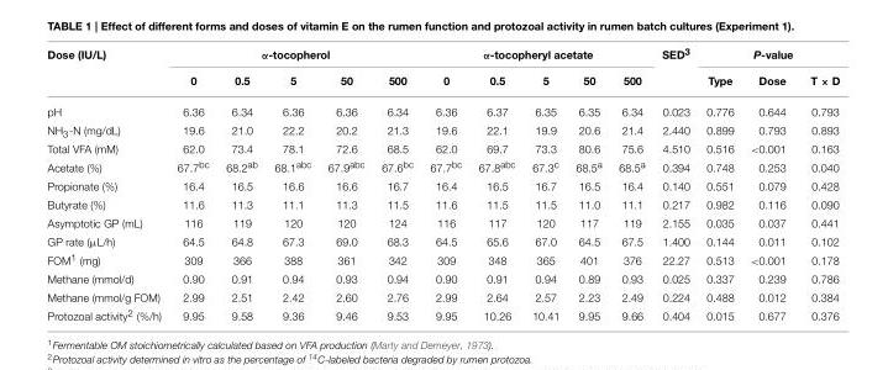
<table><thead><tr><td rowspan="2">Dose (IU/L)</td><td colspan="5">α-tocopherol</td><td colspan="5">α-tocopheryl acetate</td><td rowspan="2">SED<sup>3</sup></td><td colspan="3">P-value</td></tr><tr><td>0</td><td>0.5</td><td>5</td><td>50</td><td>500</td><td>0</td><td>0.5</td><td>5</td><td>50</td><td>500</td><td>Type</td><td>Dose</td><td>T × D</td></tr></thead><tbody><tr><td>pH</td><td>6.36</td><td>6.34</td><td>6.36</td><td>6.36</td><td>6.34</td><td>6.36</td><td>6.37</td><td>6.35</td><td>6.35</td><td>6.34</td><td>0.023</td><td>0.776</td><td>0.644</td><td>0.793</td></tr><tr><td>NH<sub>3</sub>-N (mg/dL)</td><td>19.6</td><td>21.0</td><td>22.2</td><td>20.2</td><td>21.3</td><td>19.6</td><td>22.1</td><td>19.9</td><td>20.6</td><td>21.4</td><td>2.440</td><td>0.899</td><td>0.793</td><td>0.893</td></tr><tr><td>Total VFA (mM)</td><td>62.0</td><td>73.4</td><td>78.1</td><td>72.6</td><td>68.5</td><td>62.0</td><td>69.7</td><td>73.3</td><td>80.6</td><td>75.6</td><td>4.510</td><td>0.516</td><td>&lt;0.001</td><td>0.163</td></tr><tr><td>Acetate (%)</td><td>67.7<sup>bc</sup></td><td>68.2<sup>ab</sup></td><td>68.1<sup>abc</sup></td><td>67.9<sup>abc</sup></td><td>67.6<sup>bc</sup></td><td>67.7<sup>bc</sup></td><td>67.8<sup>abc</sup></td><td>67.3<sup>c</sup></td><td>68.5<sup>a</sup></td><td>68.5<sup>a</sup></td><td>0.394</td><td>0.748</td><td>0.253</td><td>0.040</td></tr><tr><td>Propionate (%)</td><td>16.4</td><td>16.5</td><td>16.6</td><td>16.6</td><td>16.7</td><td>16.4</td><td>16.5</td><td>16.7</td><td>16.5</td><td>16.4</td><td>0.140</td><td>0.551</td><td>0.079</td><td>0.428</td></tr><tr><td>Butyrate (%)</td><td>11.6</td><td>11.3</td><td>11.1</td><td>11.3</td><td>11.5</td><td>11.6</td><td>11.5</td><td>11.5</td><td>11.0</td><td>11.1</td><td>0.217</td><td>0.982</td><td>0.116</td><td>0.090</td></tr><tr><td>Asymptotic GP (mL)</td><td>116</td><td>119</td><td>120</td><td>120</td><td>124</td><td>116</td><td>117</td><td>120</td><td>117</td><td>119</td><td>2.155</td><td>0.035</td><td>0.037</td><td>0.441</td></tr><tr><td>GP rate (µL/h)</td><td>64.5</td><td>64.8</td><td>67.3</td><td>69.0</td><td>68.3</td><td>64.5</td><td>65.6</td><td>67.0</td><td>64.5</td><td>67.5</td><td>1.400</td><td>0.144</td><td>0.011</td><td>0.102</td></tr><tr><td>FOM<sup>1</sup> (mg)</td><td>309</td><td>366</td><td>388</td><td>361</td><td>342</td><td>309</td><td>348</td><td>365</td><td>401</td><td>376</td><td>22.27</td><td>0.513</td><td>&lt;0.001</td><td>0.178</td></tr><tr><td>Methane (mmol/d)</td><td>0.90</td><td>0.91</td><td>0.94</td><td>0.93</td><td>0.94</td><td>0.90</td><td>0.91</td><td>0.94</td><td>0.89</td><td>0.93</td><td>0.025</td><td>0.337</td><td>0.239</td><td>0.786</td></tr><tr><td>Methane (mmol/g FOM)</td><td>2.99</td><td>2.51</td><td>2.42</td><td>2.60</td><td>2.76</td><td>2.99</td><td>2.64</td><td>2.57</td><td>2.23</td><td>2.49</td><td>0.224</td><td>0.488</td><td>0.012</td><td>0.384</td></tr><tr><td>Protozoal activity<sup>2</sup> (%/h)</td><td>9.95</td><td>9.58</td><td>9.36</td><td>9.46</td><td>9.53</td><td>9.95</td><td>10.26</td><td>10.41</td><td>9.95</td><td>9.66</td><td>0.404</td><td>0.015</td><td>0.677</td><td>0.376</td></tr></tbody></table>